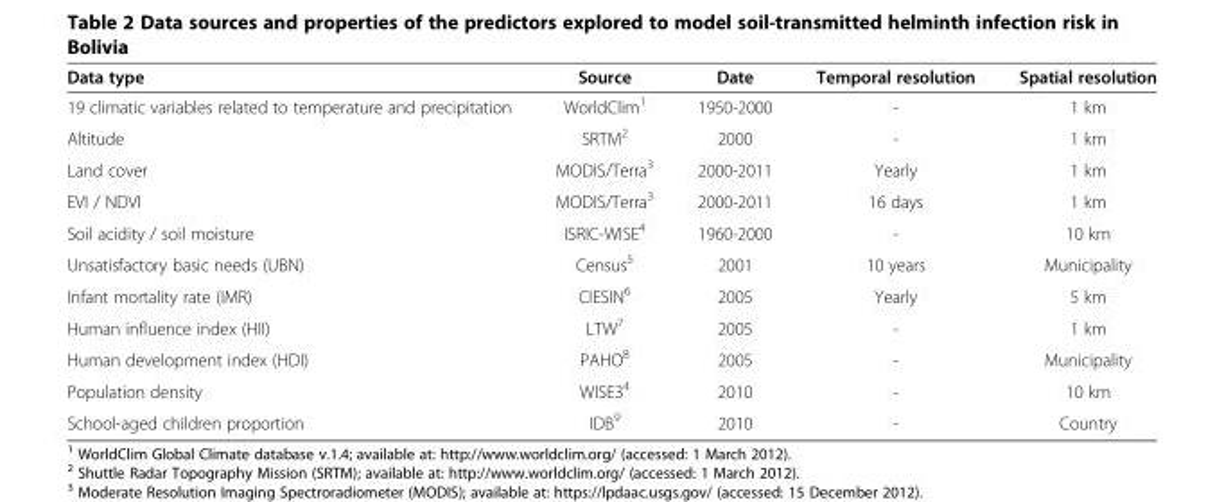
<table><thead><tr><td>Data type</td><td>Source</td><td>Date</td><td>Temporal resolution</td><td>Spatial resolution</td></tr></thead><tbody><tr><td>19 climatic variables related to temperature and precipitation</td><td>WorldClim<sup>1</sup></td><td>1950-2000</td><td>-</td><td>1 km</td></tr><tr><td>Altitude</td><td>SRTM<sup>2</sup></td><td>2000</td><td>-</td><td>1 km</td></tr><tr><td>Land cover</td><td>MODIS/Terra<sup>3</sup></td><td>2000-2011</td><td>Yearly</td><td>1 km</td></tr><tr><td>EVI / NDVI</td><td>MODIS/Terra<sup>3</sup></td><td>2000-2011</td><td>16 days</td><td>1 km</td></tr><tr><td>Soil acidity / soil moisture</td><td>ISRIC-WISE<sup>4</sup></td><td>1960-2000</td><td>-</td><td>10 km</td></tr><tr><td>Unsatisfactory basic needs (UBN)</td><td>Census<sup>5</sup></td><td>2001</td><td>10 years</td><td>Municipality</td></tr><tr><td>Infant mortality rate (IMR)</td><td>CIESIN<sup>6</sup></td><td>2005</td><td>Yearly</td><td>5 km</td></tr><tr><td>Human influence index (HII)</td><td>LTW<sup>7</sup></td><td>2005</td><td>-</td><td>1 km</td></tr><tr><td>Human development index (HDI)</td><td>PAHO<sup>8</sup></td><td>2005</td><td>-</td><td>Municipality</td></tr><tr><td>Population density</td><td>WISE3<sup>4</sup></td><td>2010</td><td>-</td><td>10 km</td></tr><tr><td>School-aged children proportion</td><td>IDB<sup>9</sup></td><td>2010</td><td>-</td><td>Country</td></tr></tbody></table>